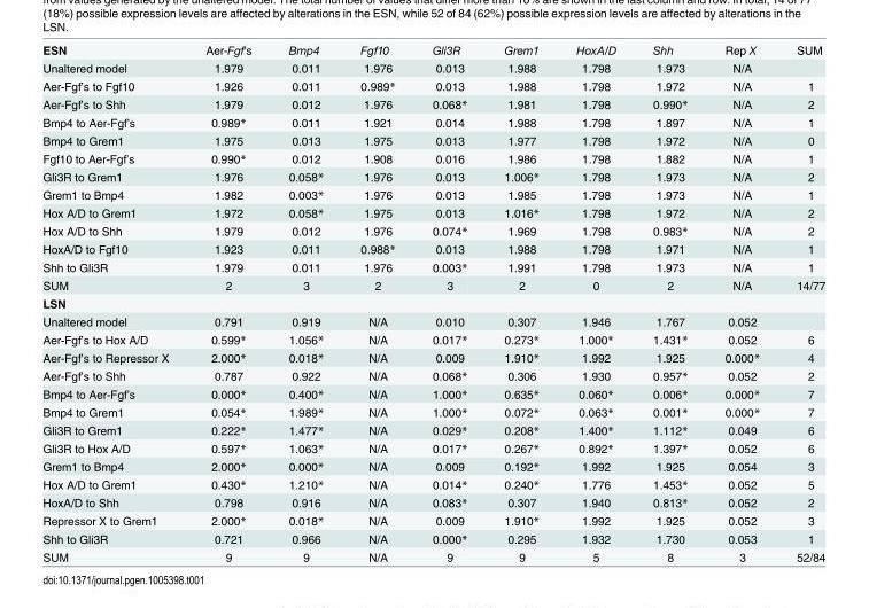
<table><tbody><tr><td>ESN</td><td>Aer-Fgf&#x27;s</td><td>Bmp4</td><td>Fgf10</td><td>Gli3R</td><td>Grem1</td><td>HoxA/D</td><td>Shh</td><td>Rep X</td><td>SUM</td></tr><tr><td>Unaltered model</td><td>1.979</td><td>0.011</td><td>1.976</td><td>0.013</td><td>1.988</td><td>1.798</td><td>1.973</td><td>N/A</td><td></td></tr><tr><td>Aer-Fgf’s to Fgf10</td><td>1.926</td><td>0.011</td><td>0.989*</td><td>0.013</td><td>1.988</td><td>1.798</td><td>1.972</td><td>N/A</td><td>1</td></tr><tr><td>Aer-Fgf’s to Shh</td><td>1.979</td><td>0.012</td><td>1.976</td><td>0.068*</td><td>1.981</td><td>1.798</td><td>0.990*</td><td>N/A</td><td>2</td></tr><tr><td>Bmp4 to Aer-Fgf’s</td><td>0.989*</td><td>0.011</td><td>1.921</td><td>0.014</td><td>1.988</td><td>1.798</td><td>1.897</td><td>N/A</td><td>1</td></tr><tr><td>Bmp4 to Grem1</td><td>1.975</td><td>0.013</td><td>1.975</td><td>0.013</td><td>1.977</td><td>1.798</td><td>1.972</td><td>N/A</td><td>0</td></tr><tr><td>Fgf10 to Aer-Fgf’s</td><td>0.990*</td><td>0.012</td><td>1.908</td><td>0.016</td><td>1.986</td><td>1.798</td><td>1.882</td><td>N/A</td><td>1</td></tr><tr><td>Gli3R to Grem1</td><td>1.976</td><td>0.058*</td><td>1.976</td><td>0.013</td><td>1.006*</td><td>1.798</td><td>1.973</td><td>N/A</td><td>2</td></tr><tr><td>Grem1 to Bmp4</td><td>1.982</td><td>0.003*</td><td>1.976</td><td>0.013</td><td>1.985</td><td>1.798</td><td>1.973</td><td>N/A</td><td>1</td></tr><tr><td>Hox A/D to Grem1</td><td>1.972</td><td>0.058*</td><td>1.975</td><td>0.013</td><td>1.016*</td><td>1.798</td><td>1.972</td><td>N/A</td><td>2</td></tr><tr><td>Hox A/D to Shh</td><td>1.979</td><td>0.012</td><td>1.976</td><td>0.074*</td><td>1.969</td><td>1.798</td><td>0.983*</td><td>N/A</td><td>2</td></tr><tr><td>HoxA/D to Fgf10</td><td>1.923</td><td>0.011</td><td>0.988*</td><td>0.013</td><td>1.988</td><td>1.798</td><td>1.971</td><td>N/A</td><td>1</td></tr><tr><td>Shh to Gli3R</td><td>1.979</td><td>0.011</td><td>1.976</td><td>0.003*</td><td>1.991</td><td>1.798</td><td>1.973</td><td>N/A</td><td>1</td></tr><tr><td>SUM</td><td>2</td><td>3</td><td>2</td><td>3</td><td>2</td><td>0</td><td>2</td><td>N/A</td><td>14/77</td></tr><tr><td colspan="10">LSN</td></tr><tr><td>Unaltered model</td><td>0.791</td><td>0.919</td><td>N/A</td><td>0.010</td><td>0.307</td><td>1.946</td><td>1.767</td><td>0.052</td><td></td></tr><tr><td>Aer-Fgf’s to Hox A/D</td><td>0.599*</td><td>1.056*</td><td>N/A</td><td>0.017*</td><td>0.273*</td><td>1.000*</td><td>1.431*</td><td>0.052</td><td>6</td></tr><tr><td>Aer-Fgf’s to Repressor X</td><td>2.000*</td><td>0.018*</td><td>N/A</td><td>0.009</td><td>1.910*</td><td>1.992</td><td>1.925</td><td>0.000*</td><td>4</td></tr><tr><td>Aer-Fgf’s to Shh</td><td>0.787</td><td>0.922</td><td>N/A</td><td>0.068*</td><td>0.306</td><td>1.930</td><td>0.957*</td><td>0.052</td><td>2</td></tr><tr><td>Bmp4 to Aer-Fgf’s</td><td>0.000*</td><td>0.400*</td><td>N/A</td><td>1.000*</td><td>0.635*</td><td>0.060*</td><td>0.006*</td><td>0.000*</td><td>7</td></tr><tr><td>Bmp4 to Grem1</td><td>0.054*</td><td>1.989*</td><td>N/A</td><td>1.000*</td><td>0.072*</td><td>0.063*</td><td>0.001*</td><td>0.000*</td><td>7</td></tr><tr><td>Gli3R to Grem1</td><td>0.222*</td><td>1.477*</td><td>N/A</td><td>0.029*</td><td>0.208*</td><td>1.400*</td><td>1.112*</td><td>0.049</td><td>6</td></tr><tr><td>Gli3R to Hox A/D</td><td>0.597*</td><td>1.063*</td><td>N/A</td><td>0.017*</td><td>0.267*</td><td>0.892*</td><td>1.397*</td><td>0.052</td><td>6</td></tr><tr><td>Grem1 to Bmp4</td><td>2.000*</td><td>0.000*</td><td>N/A</td><td>0.009</td><td>0.192*</td><td>1.992</td><td>1.925</td><td>0.054</td><td>3</td></tr><tr><td>Hox A/D to Grem1</td><td>0.430*</td><td>1.210*</td><td>N/A</td><td>0.014*</td><td>0.240*</td><td>1.776</td><td>1.453*</td><td>0.052</td><td>5</td></tr><tr><td>HoxA/D to Shh</td><td>0.798</td><td>0.916</td><td>N/A</td><td>0.083*</td><td>0.307</td><td>1.940</td><td>0.813*</td><td>0.052</td><td>2</td></tr><tr><td>Repressor X to Grem1</td><td>2.000*</td><td>0.018*</td><td>N/A</td><td>0.009</td><td>1.910*</td><td>1.992</td><td>1.925</td><td>0.052</td><td>3</td></tr><tr><td>Shh to Gli3R</td><td>0.721</td><td>0.966</td><td>N/A</td><td>0.000*</td><td>0.295</td><td>1.932</td><td>1.730</td><td>0.053</td><td>1</td></tr><tr><td>SUM</td><td>9</td><td>9</td><td>N/A</td><td>9</td><td>9</td><td>5</td><td>8</td><td>3</td><td>52/84</td></tr></tbody></table>